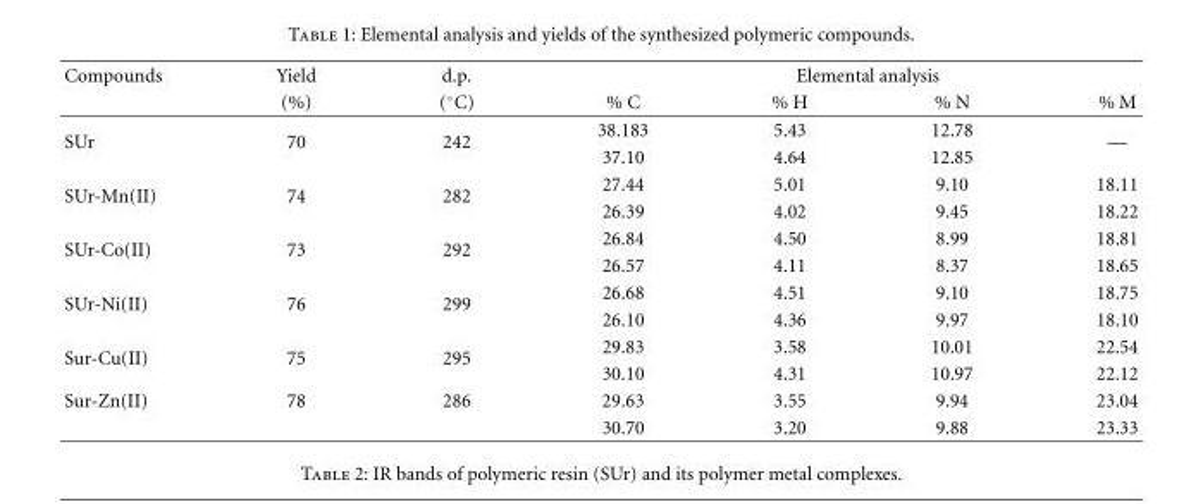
<table><thead><tr><td rowspan="2">Compounds</td><td rowspan="2">Yield (%)</td><td rowspan="2">d.p. (◦C)</td><td colspan="4">Elemental analysis</td></tr><tr><td>% C</td><td>% H</td><td>% N</td><td>% M</td></tr></thead><tbody><tr><td rowspan="2">SUr</td><td rowspan="2">70</td><td rowspan="2">242</td><td>38.183</td><td>5.43</td><td>12.78</td><td rowspan="2">—</td></tr><tr><td>37.10</td><td>4.64</td><td>12.85</td></tr><tr><td rowspan="2">SUr-Mn(II)</td><td rowspan="2">74</td><td rowspan="2">282</td><td>27.44</td><td>5.01</td><td>9.10</td><td>18.11</td></tr><tr><td>26.39</td><td>4.02</td><td>9.45</td><td>18.22</td></tr><tr><td rowspan="2">SUr-Co(II)</td><td rowspan="2">73</td><td rowspan="2">292</td><td>26.84</td><td>4.50</td><td>8.99</td><td>18.81</td></tr><tr><td>26.57</td><td>4.11</td><td>8.37</td><td>18.65</td></tr><tr><td rowspan="2">SUr-Ni(II)</td><td rowspan="2">76</td><td rowspan="2">299</td><td>26.68</td><td>4.51</td><td>9.10</td><td>18.75</td></tr><tr><td>26.10</td><td>4.36</td><td>9.97</td><td>18.10</td></tr><tr><td rowspan="2">Sur-Cu(II)</td><td rowspan="2">75</td><td rowspan="2">295</td><td>29.83</td><td>3.58</td><td>10.01</td><td>22.54</td></tr><tr><td>30.10</td><td>4.31</td><td>10.97</td><td>22.12</td></tr><tr><td rowspan="2">Sur-Zn(II)</td><td>78</td><td>286</td><td>29.63</td><td>3.55</td><td>9.94</td><td>23.04</td></tr><tr><td></td><td></td><td>30.70</td><td>3.20</td><td>9.88</td><td>23.33</td></tr></tbody></table>